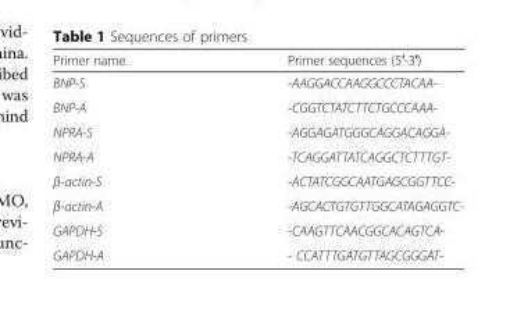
<table><thead><tr><td>Primer name</td><td>Primer sequences (5′-3′)</td></tr></thead><tbody><tr><td>BNP-S</td><td>-AAGGACCAAGGCCCTACAA-</td></tr><tr><td>BNP-A</td><td>-CGGTCTATCTTCTGCCCAAA-</td></tr><tr><td>NPRA-S</td><td>-AGGAGATGGGCAGGACAGGA-</td></tr><tr><td>NPRA-A</td><td>-TCAGGATTATCAGGCTCTTTGT-</td></tr><tr><td>β-actin-S</td><td>-ACTATCGGCAATGAGCGGTTCC-</td></tr><tr><td>β-actin-A</td><td>-AGCACTGTGTTGGCATAGAGGTC-</td></tr><tr><td>GAPDH-S</td><td>-CAAGTTCAACGGCACAGTCA-</td></tr><tr><td>GAPDH-A</td><td>- CCATTTGATGTTAGCGGGAT-</td></tr></tbody></table>